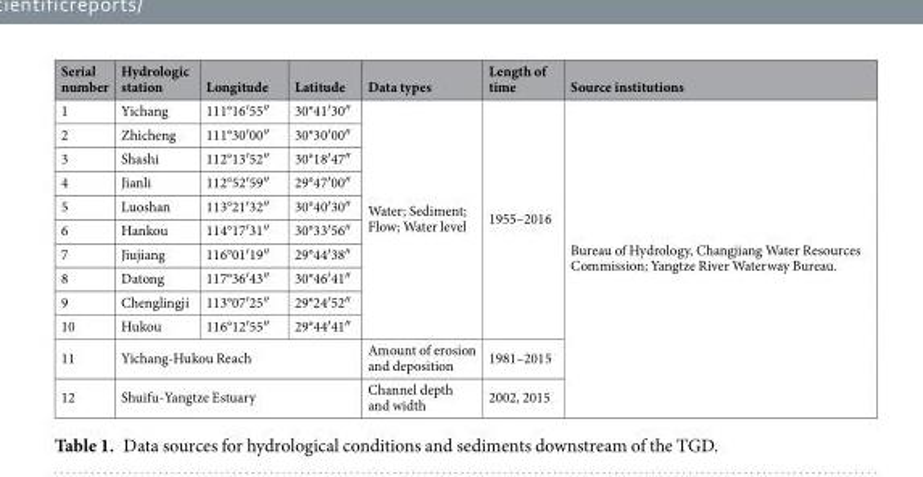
<table><thead><tr><td>Serial number</td><td>Hydrologic station</td><td>Longitude</td><td>Latitude</td><td>Data types</td><td>Length of time</td><td>Source institutions</td></tr></thead><tbody><tr><td>1</td><td>Yichang</td><td>111°16′55″</td><td>30°41′30″</td><td rowspan="10">Water; Sediment; Flow; Water level</td><td rowspan="10">1955–2016</td><td rowspan="12">Bureau of Hydrology, Changjiang Water Resources Commission; Yangtze River Waterway Bureau.</td></tr><tr><td>2</td><td>Zhicheng</td><td>111°30′00″</td><td>30°30′00″</td></tr><tr><td>3</td><td>Shashi</td><td>112°13′52″</td><td>30°18′47″</td></tr><tr><td>4</td><td>Jianli</td><td>112°52′59″</td><td>29°47′00″</td></tr><tr><td>5</td><td>Luoshan</td><td>113°21′32″</td><td>30°40′30″</td></tr><tr><td>6</td><td>Hankou</td><td>114°17′31″</td><td>30°33′56″</td></tr><tr><td>7</td><td>Jiujiang</td><td>116°01′19″</td><td>29°44′38″</td></tr><tr><td>8</td><td>Datong</td><td>117°36′43″</td><td>30°46′41″</td></tr><tr><td>9</td><td>Chenglingji</td><td>113°07′25″</td><td>29°24′52″</td></tr><tr><td>10</td><td>Hukou</td><td>116°12′55″</td><td>29°44′41″</td></tr><tr><td>11</td><td colspan="3">Yichang-Hukou Reach</td><td>Amount of erosion and deposition</td><td>1981–2015</td></tr><tr><td>12</td><td colspan="3">Shuifu-Yangtze Estuary</td><td>Channel depth and width</td><td>2002, 2015</td></tr></tbody></table>